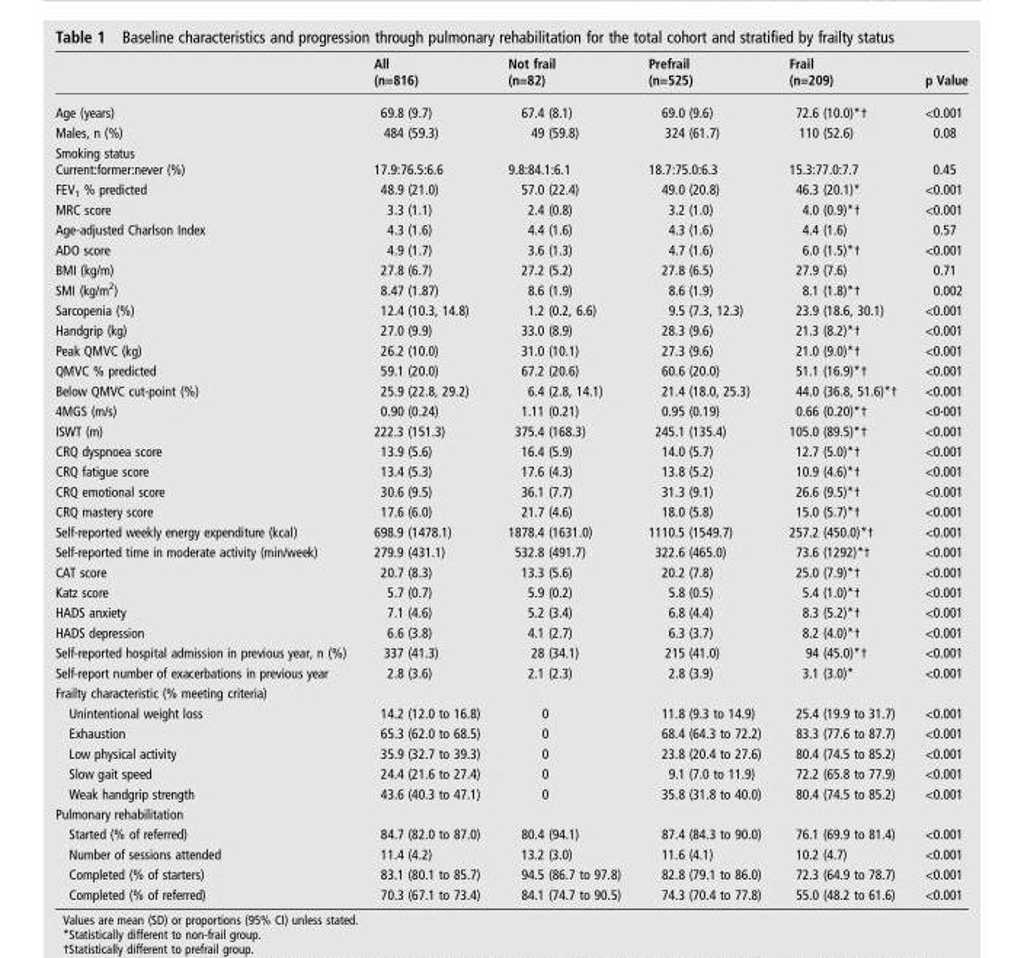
<table><thead><tr><td></td><td>All (n=816)</td><td>Not frail (n=82)</td><td>Prefrail (n=525)</td><td>Frail (n=209)</td><td>p Value</td></tr></thead><tbody><tr><td>Age (years)</td><td>69.8 (9.7)</td><td>67.4 (8.1)</td><td>69.0 (9.6)</td><td>72.6 (10.0)*†</td><td>&lt;0.001</td></tr><tr><td>Males, n (%)</td><td>484 (59.3)</td><td>49 (59.8)</td><td>324 (61.7)</td><td>110 (52.6)</td><td>0.08</td></tr><tr><td>Smoking status Current:former:never (%)</td><td>17.9:76.5:6.6</td><td>9.8:84.1:6.1</td><td>18.7:75.0:6.3</td><td>15.3:77.0:7.7</td><td>0.45</td></tr><tr><td>FEV<sub>1</sub> % predicted</td><td>48.9 (21.0)</td><td>57.0 (22.4)</td><td>49.0 (20.8)</td><td>46.3 (20.1)*</td><td>&lt;0.001</td></tr><tr><td>MRC score</td><td>3.3 (1.1)</td><td>2.4 (0.8)</td><td>3.2 (1.0)</td><td>4.0 (0.9)*†</td><td>&lt;0.001</td></tr><tr><td>Age-adjusted Charlson Index</td><td>4.3 (1.6)</td><td>4.4 (1.6)</td><td>4.3 (1.6)</td><td>4.4 (1.6)</td><td>0.57</td></tr><tr><td>ADO score</td><td>4.9 (1.7)</td><td>3.6 (1.3)</td><td>4.7 (1.6)</td><td>6.0 (1.5)*†</td><td>&lt;0.001</td></tr><tr><td>BMI (kg/m)</td><td>27.8 (6.7)</td><td>27.2 (5.2)</td><td>27.8 (6.5)</td><td>27.9 (7.6)</td><td>0.71</td></tr><tr><td>SMI (kg/m<sup>2</sup>)</td><td>8.47 (1.87)</td><td>8.6 (1.9)</td><td>8.6 (1.9)</td><td>8.1 (1.8)*†</td><td>0.002</td></tr><tr><td>Sarcopenia (%)</td><td>12.4 (10.3, 14.8)</td><td>1.2 (0.2, 6.6)</td><td>9.5 (7.3, 12.3)</td><td>23.9 (18.6, 30.1)</td><td>&lt;0.001</td></tr><tr><td>Handgrip (kg)</td><td>27.0 (9.9)</td><td>33.0 (8.9)</td><td>28.3 (9.6)</td><td>21.3 (8.2)*†</td><td>&lt;0.001</td></tr><tr><td>Peak QMVC (kg)</td><td>26.2 (10.0)</td><td>31.0 (10.1)</td><td>27.3 (9.6)</td><td>21.0 (9.0)*†</td><td>&lt;0.001</td></tr><tr><td>QMVC % predicted</td><td>59.1 (20.0)</td><td>67.2 (20.6)</td><td>60.6 (20.0)</td><td>51.1 (16.9)*†</td><td>&lt;0.001</td></tr><tr><td>Below QMVC cut-point (%)</td><td>25.9 (22.8, 29.2)</td><td>6.4 (2.8, 14.1)</td><td>21.4 (18.0, 25.3)</td><td>44.0 (36.8, 51.6)*†</td><td>&lt;0.001</td></tr><tr><td>4MGS (m/s)</td><td>0.90 (0.24)</td><td>1.11 (0.21)</td><td>0.95 (0.19)</td><td>0.66 (0.20)*†</td><td>&lt;0·001</td></tr><tr><td>ISWT (m)</td><td>222.3 (151.3)</td><td>375.4 (168.3)</td><td>245.1 (135.4)</td><td>105.0 (89.5)*†</td><td>&lt;0.001</td></tr><tr><td>CRQ dyspnoea score</td><td>13.9 (5.6)</td><td>16.4 (5.9)</td><td>14.0 (5.7)</td><td>12.7 (5.0)*†</td><td>&lt;0.001</td></tr><tr><td>CRQ fatigue score</td><td>13.4 (5.3)</td><td>17.6 (4.3)</td><td>13.8 (5.2)</td><td>10.9 (4.6)*†</td><td>&lt;0.001</td></tr><tr><td>CRQ emotional score</td><td>30.6 (9.5)</td><td>36.1 (7.7)</td><td>31.3 (9.1)</td><td>26.6 (9.5)*†</td><td>&lt;0.001</td></tr><tr><td>CRQ mastery score</td><td>17.6 (6.0)</td><td>21.7 (4.6)</td><td>18.0 (5.8)</td><td>15.0 (5.7)*†</td><td>&lt;0.001</td></tr><tr><td>Self-reported weekly energy expenditure (kcal)</td><td>698.9 (1478.1)</td><td>1878.4 (1631.0)</td><td>1110.5 (1549.7)</td><td>257.2 (450.0)*†</td><td>&lt;0.001</td></tr><tr><td>Self-reported time in moderate activity (min/week)</td><td>279.9 (431.1)</td><td>532.8 (491.7)</td><td>322.6 (465.0)</td><td>73.6 (1292)*†</td><td>&lt;0.001</td></tr><tr><td>CAT score</td><td>20.7 (8.3)</td><td>13.3 (5.6)</td><td>20.2 (7.8)</td><td>25.0 (7.9)*†</td><td>&lt;0.001</td></tr><tr><td>Katz score</td><td>5.7 (0.7)</td><td>5.9 (0.2)</td><td>5.8 (0.5)</td><td>5.4 (1.0)*†</td><td>&lt;0.001</td></tr><tr><td>HADS anxiety</td><td>7.1 (4.6)</td><td>5.2 (3.4)</td><td>6.8 (4.4)</td><td>8.3 (5.2)*†</td><td>&lt;0.001</td></tr><tr><td>HADS depression</td><td>6.6 (3.8)</td><td>4.1 (2.7)</td><td>6.3 (3.7)</td><td>8.2 (4.0)*†</td><td>&lt;0.001</td></tr><tr><td>Self-reported hospital admission in previous year, n (%)</td><td>337 (41.3)</td><td>28 (34.1)</td><td>215 (41.0)</td><td>94 (45.0)*†</td><td>&lt;0.001</td></tr><tr><td>Self-report number of exacerbations in previous year</td><td>2.8 (3.6)</td><td>2.1 (2.3)</td><td>2.8 (3.9)</td><td>3.1 (3.0)*</td><td>&lt;0.001</td></tr><tr><td colspan="6">Frailty characteristic (% meeting criteria)</td></tr><tr><td>Unintentional weight loss</td><td>14.2 (12.0 to 16.8)</td><td>0</td><td>11.8 (9.3 to 14.9)</td><td>25.4 (19.9 to 31.7)</td><td>&lt;0.001</td></tr><tr><td>Exhaustion</td><td>65.3 (62.0 to 68.5)</td><td>0</td><td>68.4 (64.3 to 72.2)</td><td>83.3 (77.6 to 87.7)</td><td>&lt;0.001</td></tr><tr><td>Low physical activity</td><td>35.9 (32.7 to 39.3)</td><td>0</td><td>23.8 (20.4 to 27.6)</td><td>80.4 (74.5 to 85.2)</td><td>&lt;0.001</td></tr><tr><td>Slow gait speed</td><td>24.4 (21.6 to 27.4)</td><td>0</td><td>9.1 (7.0 to 11.9)</td><td>72.2 (65.8 to 77.9)</td><td>&lt;0.001</td></tr><tr><td>Weak handgrip strength</td><td>43.6 (40.3 to 47.1)</td><td>0</td><td>35.8 (31.8 to 40.0)</td><td>80.4 (74.5 to 85.2)</td><td>&lt;0.001</td></tr><tr><td colspan="6">Pulmonary rehabilitation</td></tr><tr><td>Started (% of referred)</td><td>84.7 (82.0 to 87.0)</td><td>80.4 (94.1)</td><td>87.4 (84.3 to 90.0)</td><td>76.1 (69.9 to 81.4)</td><td>&lt;0.001</td></tr><tr><td>Number of sessions attended</td><td>11.4 (4.2)</td><td>13.2 (3.0)</td><td>11.6 (4.1)</td><td>10.2 (4.7)</td><td>&lt;0.001</td></tr><tr><td>Completed (% of starters)</td><td>83.1 (80.1 to 85.7)</td><td>94.5 (86.7 to 97.8)</td><td>82.8 (79.1 to 86.0)</td><td>72.3 (64.9 to 78.7)</td><td>&lt;0.001</td></tr><tr><td>Completed (% of referred)</td><td>70.3 (67.1 to 73.4)</td><td>84.1 (74.7 to 90.5)</td><td>74.3 (70.4 to 77.8)</td><td>55.0 (48.2 to 61.6)</td><td>&lt;0.001</td></tr></tbody></table>